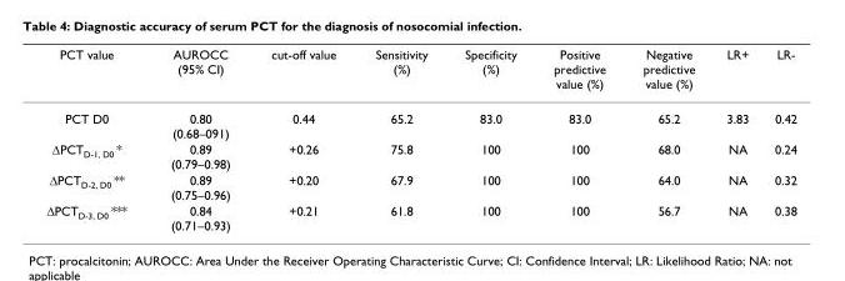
<table><thead><tr><td>PCT value</td><td>AUROCC (95% CI)</td><td>cut-off value</td><td>Sensitivity (%)</td><td>Specificity (%)</td><td>Positive predictive value (%)</td><td>Negative predictive value (%)</td><td>LR+</td><td>LR-</td></tr></thead><tbody><tr><td>PCT D0</td><td>0.80 (0.68–091)</td><td>0.44</td><td>65.2</td><td>83.0</td><td>83.0</td><td>65.2</td><td>3.83</td><td>0.42</td></tr><tr><td>ΔPCT<sub>D-1, D0</sub> *</td><td>0.89 (0.79–0.98)</td><td>+0.26</td><td>75.8</td><td>100</td><td>100</td><td>68.0</td><td>NA</td><td>0.24</td></tr><tr><td>ΔPCT<sub>D-2, D0</sub> **</td><td>0.89 (0.75–0.96)</td><td>+0.20</td><td>67.9</td><td>100</td><td>100</td><td>64.0</td><td>NA</td><td>0.32</td></tr><tr><td>ΔPCT<sub>D-3, D0</sub> ***</td><td>0.84 (0.71–0.93)</td><td>+0.21</td><td>61.8</td><td>100</td><td>100</td><td>56.7</td><td>NA</td><td>0.38</td></tr></tbody></table>